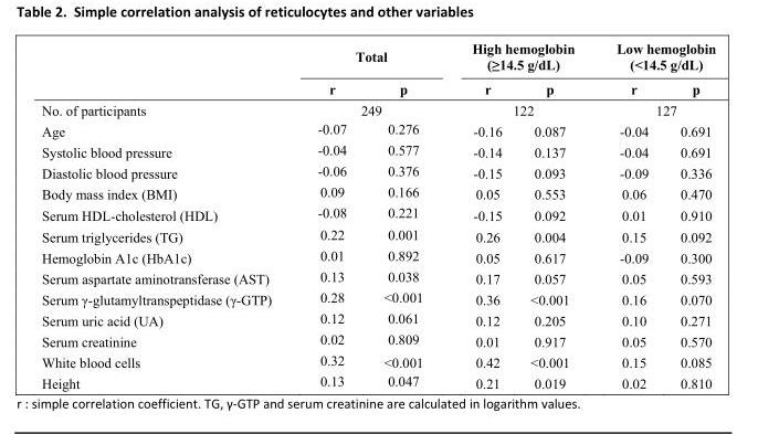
<table><thead><tr><td rowspan="2"></td><td colspan="2">Total</td><td colspan="2">High hemoglobin (≥14.5 g/dL)</td><td colspan="2">Low hemoglobin (&lt;14.5 g/dL)</td></tr><tr><td>r</td><td>p</td><td>r</td><td>p</td><td>r</td><td>p</td></tr></thead><tbody><tr><td>No. of participants</td><td colspan="2">249</td><td colspan="2">122</td><td colspan="2">127</td></tr><tr><td>Age</td><td>-0.07</td><td>0.276</td><td>-0.16</td><td>0.087</td><td>-0.04</td><td>0.691</td></tr><tr><td>Systolic blood pressure</td><td>-0.04</td><td>0.577</td><td>-0.14</td><td>0.137</td><td>-0.04</td><td>0.691</td></tr><tr><td>Diastolic blood pressure</td><td>-0.06</td><td>0.376</td><td>-0.15</td><td>0.093</td><td>-0.09</td><td>0.336</td></tr><tr><td>Body mass index (BMI)</td><td>0.09</td><td>0.166</td><td>0.05</td><td>0.553</td><td>0.06</td><td>0.470</td></tr><tr><td>Serum HDL-cholesterol (HDL)</td><td>-0.08</td><td>0.221</td><td>-0.15</td><td>0.092</td><td>0.01</td><td>0.910</td></tr><tr><td>Serum triglycerides (TG)</td><td>0.22</td><td>0.001</td><td>0.26</td><td>0.004</td><td>0.15</td><td>0.092</td></tr><tr><td>Hemoglobin A1c (HbA1c)</td><td>0.01</td><td>0.892</td><td>0.05</td><td>0.617</td><td>-0.09</td><td>0.300</td></tr><tr><td>Serum aspartate aminotransferase (AST)</td><td>0.13</td><td>0.038</td><td>0.17</td><td>0.057</td><td>0.05</td><td>0.593</td></tr><tr><td>Serum γ-glutamyltranspeptidase (γ-GTP)</td><td>0.28</td><td>&lt;0.001</td><td>0.36</td><td>&lt;0.001</td><td>0.16</td><td>0.070</td></tr><tr><td>Serum uric acid (UA)</td><td>0.12</td><td>0.061</td><td>0.12</td><td>0.205</td><td>0.10</td><td>0.271</td></tr><tr><td>Serum creatinine</td><td>0.02</td><td>0.809</td><td>0.01</td><td>0.917</td><td>0.05</td><td>0.570</td></tr><tr><td>White blood cells</td><td>0.32</td><td>&lt;0.001</td><td>0.42</td><td>&lt;0.001</td><td>0.15</td><td>0.085</td></tr><tr><td>Height</td><td>0.13</td><td>0.047</td><td>0.21</td><td>0.019</td><td>0.02</td><td>0.810</td></tr></tbody></table>